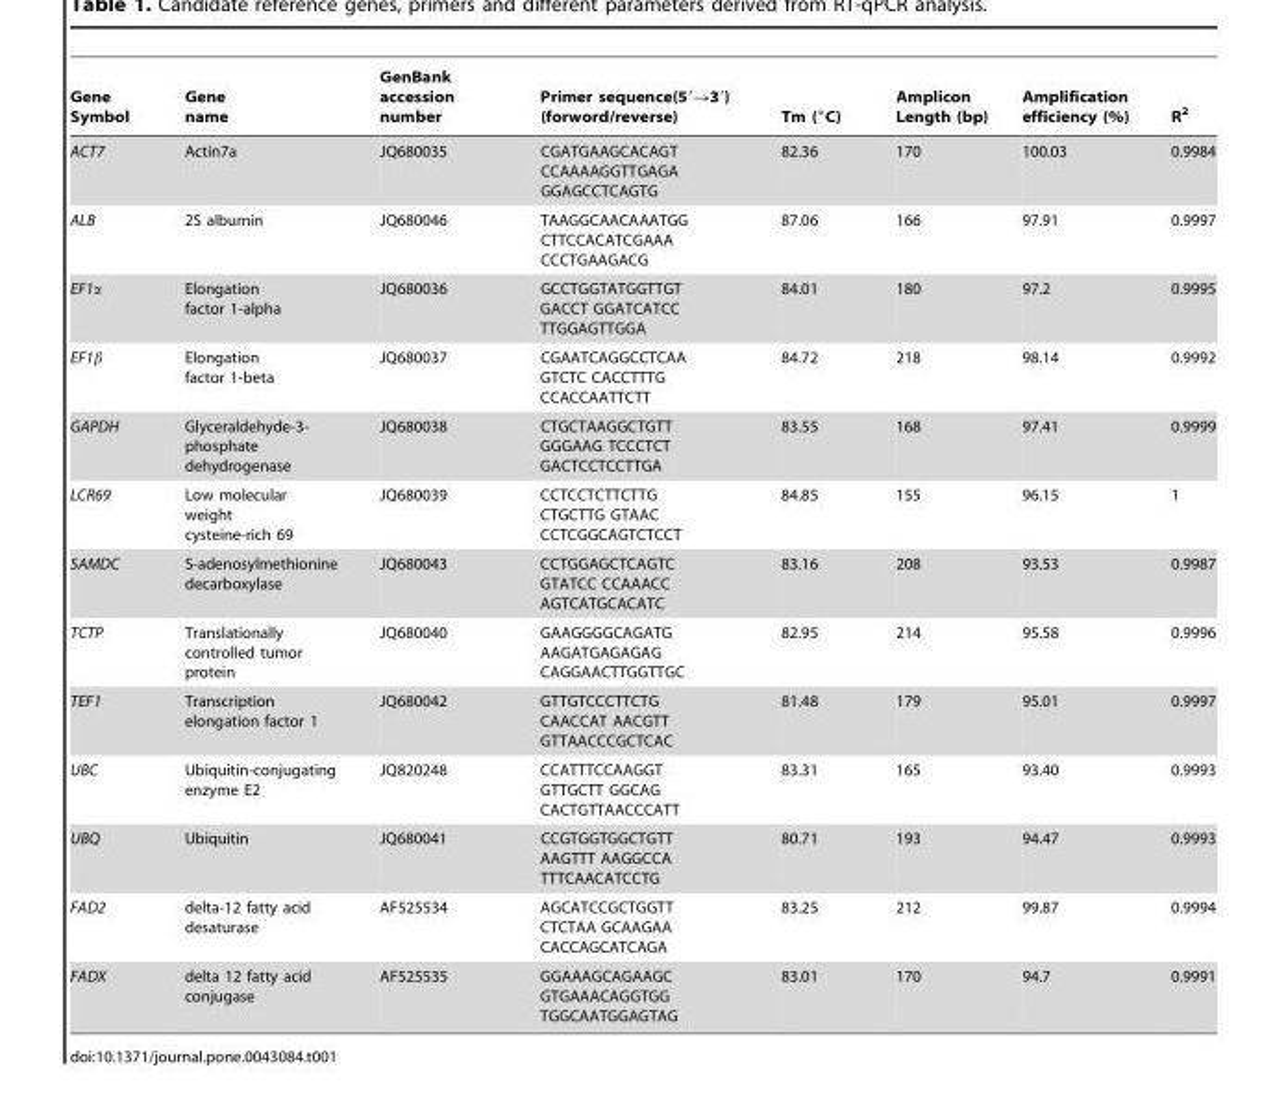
<table><thead><tr><td>Gene Symbol</td><td>Gene name</td><td>GenBank accession number</td><td>Primer sequence(5′→3′) (forword/reverse)</td><td>Tm (°C)</td><td>Amplicon Length (bp)</td><td>Amplification efficiency (%)</td><td>R<sup>2</sup></td></tr></thead><tbody><tr><td>ACT7</td><td>Actin7a</td><td>JQ680035</td><td>CGATGAAGCACAGT CCAAAAGGTTGAGA GGAGCCTCAGTG</td><td>82.36</td><td>170</td><td>100.03</td><td>0.9984</td></tr><tr><td>ALB</td><td>2S albumin</td><td>JQ680046</td><td>TAAGGCAACAAATGG CTTCCACATCGAAA CCCTGAAGACG</td><td>87.06</td><td>166</td><td>97.91</td><td>0.9997</td></tr><tr><td>EF1α</td><td>Elongation factor 1-alpha</td><td>JQ680036</td><td>GCCTGGTATGGTTGT GACCT GGATCATCC TTGGAGTTGGA</td><td>84.01</td><td>180</td><td>97.2</td><td>0.9995</td></tr><tr><td>EF1β</td><td>Elongation factor 1-beta</td><td>JQ680037</td><td>CGAATCAGGCCTCAA GTCTC CACCTTTG CCACCAATTCTT</td><td>84.72</td><td>218</td><td>98.14</td><td>0.9992</td></tr><tr><td>GAPDH</td><td>Glyceraldehyde-3- phosphate dehydrogenase</td><td>JQ680038</td><td>CTGCTAAGGCTGTT GGGAAG TCCCTCT GACTCCTCCTTGA</td><td>83.55</td><td>168</td><td>97.41</td><td>0.9999</td></tr><tr><td>LCR69</td><td>Low molecular weight cysteine-rich 69</td><td>JQ680039</td><td>CCTCCTCTTCTTG CTGCTTG GTAAC CCTCGGCAGTCTCCT</td><td>84.85</td><td>155</td><td>96.15</td><td>1</td></tr><tr><td>SAMDC</td><td>S-adenosylmethionine decarboxylase</td><td>JQ680043</td><td>CCTGGAGCTCAGTC GTATCC CCAAACC AGTCATGCACATC</td><td>83.16</td><td>208</td><td>93.53</td><td>0.9987</td></tr><tr><td>TCTP</td><td>Translationally controlled tumor protein</td><td>JQ680040</td><td>GAAGGGGCAGATG AAGATGAGAGAG CAGGAACTTGGTTGC</td><td>82.95</td><td>214</td><td>95.58</td><td>0.9996</td></tr><tr><td>TEF1</td><td>Transcription elongation factor 1</td><td>JQ680042</td><td>GTTGTCCCTTCTG CAACCAT AACGTT GTTAACCCGCTCAC</td><td>81.48</td><td>179</td><td>95.01</td><td>0.9997</td></tr><tr><td>UBC</td><td>Ubiquitin-conjugating enzyme E2</td><td>JQ820248</td><td>CCATTTCCAAGGT GTTGCTT GGCAG CACTGTTAACCCATT</td><td>83.31</td><td>165</td><td>93.40</td><td>0.9993</td></tr><tr><td>UBQ</td><td>Ubiquitin</td><td>JQ680041</td><td>CCGTGGTGGCTGTT AAGTTT AAGGCCA TTTCAACATCCTG</td><td>80.71</td><td>193</td><td>94.47</td><td>0.9993</td></tr><tr><td>FAD2</td><td>delta-12 fatty acid desaturase</td><td>AF525534</td><td>AGCATCCGCTGGTT CTCTAA GCAAGAA CACCAGCATCAGA</td><td>83.25</td><td>212</td><td>99.87</td><td>0.9994</td></tr><tr><td>FADX</td><td>delta 12 fatty acid conjugase</td><td>AF525535</td><td>GGAAAGCAGAAGC GTGAAACAGGTGG TGGCAATGGAGTAG</td><td>83.01</td><td>170</td><td>94.7</td><td>0.9991</td></tr></tbody></table>